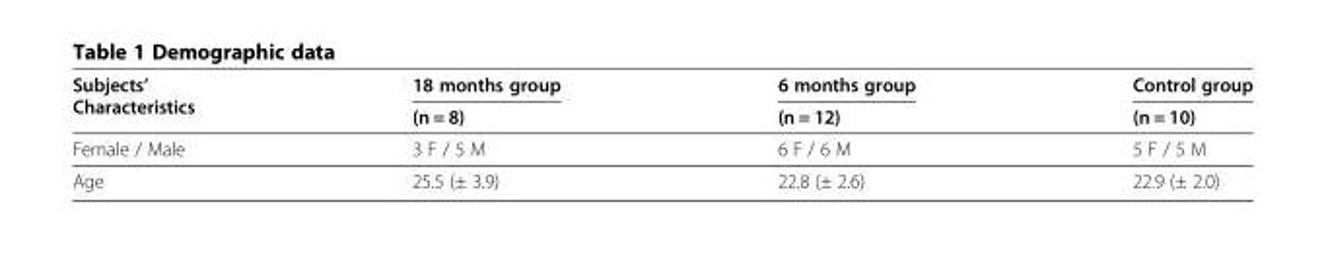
<table><thead><tr><td rowspan="2">Subjects’ Characteristics</td><td rowspan="2">18 months group (n = 8)</td><td rowspan="2">6 months group (n = 12)</td><td rowspan="2">Control group (n = 10)</td></tr><tr></tr></thead><tbody><tr><td>Female / Male</td><td>3 F / 5 M</td><td>6 F / 6 M</td><td>5 F / 5 M</td></tr><tr><td>Age</td><td>25.5 (± 3.9)</td><td>22.8 (± 2.6)</td><td>22.9 (± 2.0)</td></tr></tbody></table>